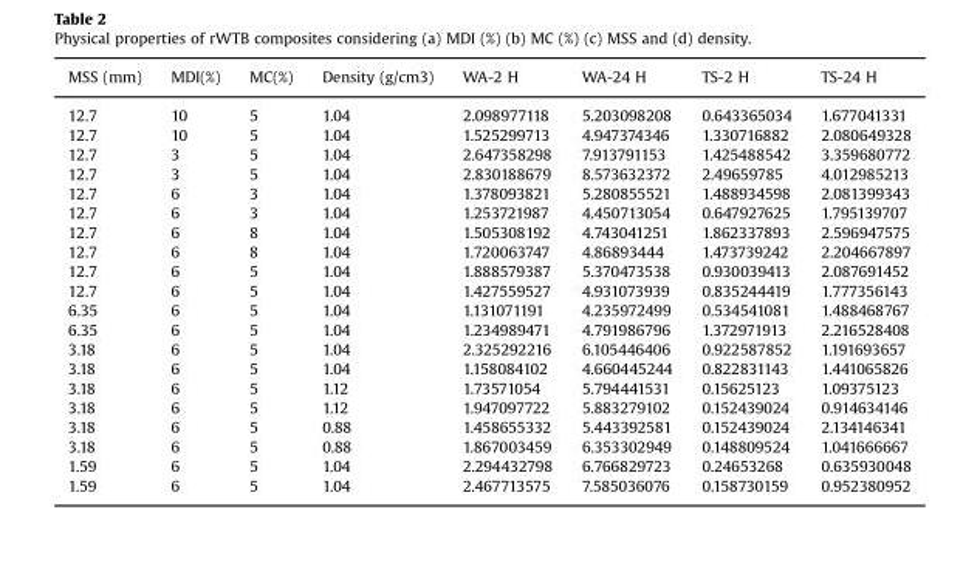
<table><thead><tr><td>MSS (mm)</td><td>MDI(%)</td><td>MC(%)</td><td>Density (g/cm3)</td><td>WA-2 H</td><td>WA-24 H</td><td>TS-2 H</td><td>TS-24 H</td></tr></thead><tbody><tr><td>12.7</td><td>10</td><td>5</td><td>1.04</td><td>2.098977118</td><td>5.203098208</td><td>0.643365034</td><td>1.677041331</td></tr><tr><td>12.7</td><td>10</td><td>5</td><td>1.04</td><td>1.525299713</td><td>4.947374346</td><td>1.330716882</td><td>2.080649328</td></tr><tr><td>12.7</td><td>3</td><td>5</td><td>1.04</td><td>2.647358298</td><td>7.913791153</td><td>1.425488542</td><td>3.359680772</td></tr><tr><td>12.7</td><td>3</td><td>5</td><td>1.04</td><td>2.830188679</td><td>8.573632372</td><td>2.49659785</td><td>4.012985213</td></tr><tr><td>12.7</td><td>6</td><td>3</td><td>1.04</td><td>1.378093821</td><td>5.280855521</td><td>1.488934598</td><td>2.081399343</td></tr><tr><td>12.7</td><td>6</td><td>3</td><td>1.04</td><td>1.253721987</td><td>4.450713054</td><td>0.647927625</td><td>1.795139707</td></tr><tr><td>12.7</td><td>6</td><td>8</td><td>1.04</td><td>1.505308192</td><td>4.743041251</td><td>1.862337893</td><td>2.596947575</td></tr><tr><td>12.7</td><td>6</td><td>8</td><td>1.04</td><td>1.720063747</td><td>4.86893444</td><td>1.473739242</td><td>2.204667897</td></tr><tr><td>12.7</td><td>6</td><td>5</td><td>1.04</td><td>1.888579387</td><td>5.370473538</td><td>0.930039413</td><td>2.087691452</td></tr><tr><td>12.7</td><td>6</td><td>5</td><td>1.04</td><td>1.427559527</td><td>4.931073939</td><td>0.835244419</td><td>1.777356143</td></tr><tr><td>6.35</td><td>6</td><td>5</td><td>1.04</td><td>1.131071191</td><td>4.235972499</td><td>0.534541081</td><td>1.488468767</td></tr><tr><td>6.35</td><td>6</td><td>5</td><td>1.04</td><td>1.234989471</td><td>4.791986796</td><td>1.372971913</td><td>2.216528408</td></tr><tr><td>3.18</td><td>6</td><td>5</td><td>1.04</td><td>2.325292216</td><td>6.105446406</td><td>0.922587852</td><td>1.191693657</td></tr><tr><td>3.18</td><td>6</td><td>5</td><td>1.04</td><td>1.158084102</td><td>4.660445244</td><td>0.822831143</td><td>1.441065826</td></tr><tr><td>3.18</td><td>6</td><td>5</td><td>1.12</td><td>1.73571054</td><td>5.794441531</td><td>0.15625123</td><td>1.09375123</td></tr><tr><td>3.18</td><td>6</td><td>5</td><td>1.12</td><td>1.947097722</td><td>5.883279102</td><td>0.152439024</td><td>0.914634146</td></tr><tr><td>3.18</td><td>6</td><td>5</td><td>0.88</td><td>1.458655332</td><td>5.443392581</td><td>0.152439024</td><td>2.134146341</td></tr><tr><td>3.18</td><td>6</td><td>5</td><td>0.88</td><td>1.867003459</td><td>6.353302949</td><td>0.148809524</td><td>1.041666667</td></tr><tr><td>1.59</td><td>6</td><td>5</td><td>1.04</td><td>2.294432798</td><td>6.766829723</td><td>0.24653268</td><td>0.635930048</td></tr><tr><td>1.59</td><td>6</td><td>5</td><td>1.04</td><td>2.467713575</td><td>7.585036076</td><td>0.158730159</td><td>0.952380952</td></tr></tbody></table>